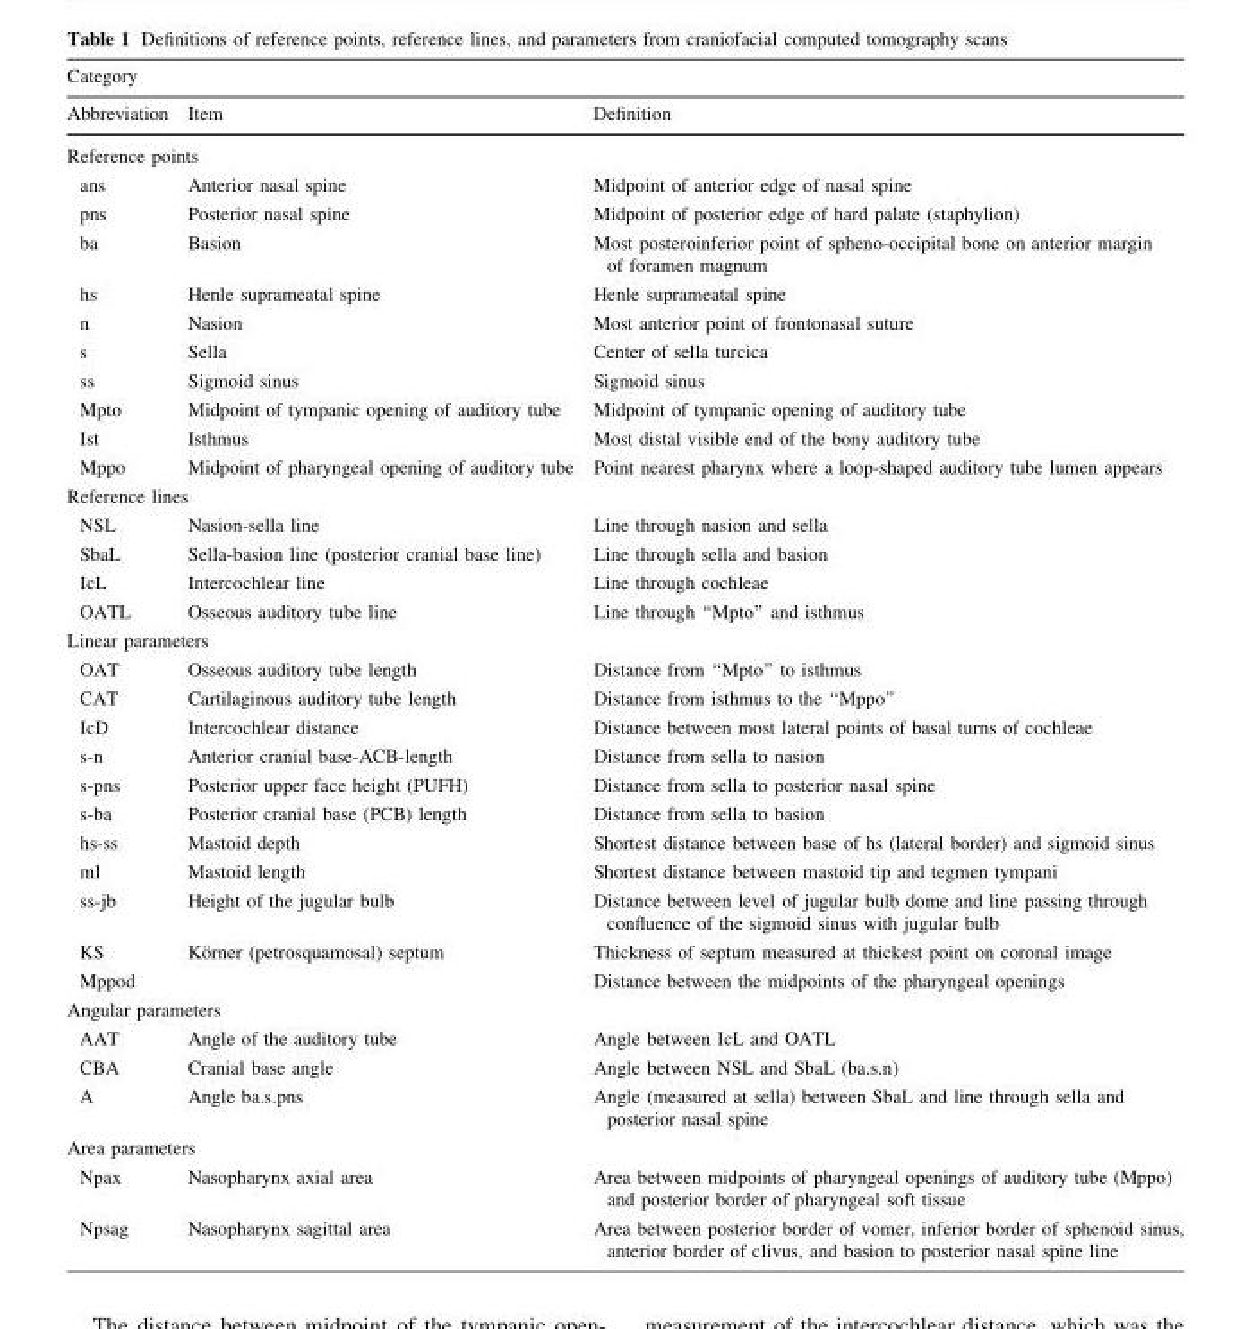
<table><thead><tr><td colspan="3">Category</td></tr><tr><td>Abbreviation</td><td>Item</td><td>Definition</td></tr></thead><tbody><tr><td colspan="3">Reference points</td></tr><tr><td>ans</td><td>Anterior nasal spine</td><td>Midpoint of anterior edge of nasal spine</td></tr><tr><td>pns</td><td>Posterior nasal spine</td><td>Midpoint of posterior edge of hard palate (staphylion)</td></tr><tr><td>ba</td><td>Basion</td><td>Most posteroinferior point of spheno-occipital bone on anterior margin of foramen magnum</td></tr><tr><td>hs</td><td>Henle suprameatal spine</td><td>Henle suprameatal spine</td></tr><tr><td>n</td><td>Nasion</td><td>Most anterior point of frontonasal suture</td></tr><tr><td>s</td><td>Sella</td><td>Center of sella turcica</td></tr><tr><td>ss</td><td>Sigmoid sinus</td><td>Sigmoid sinus</td></tr><tr><td>Mpto</td><td>Midpoint of tympanic opening of auditory tube</td><td>Midpoint of tympanic opening of auditory tube</td></tr><tr><td>Ist</td><td>Isthmus</td><td>Most distal visible end of the bony auditory tube</td></tr><tr><td>Mppo</td><td>Midpoint of pharyngeal opening of auditory tube</td><td>Point nearest pharynx where a loop-shaped auditory tube lumen appears</td></tr><tr><td colspan="3">Reference lines</td></tr><tr><td>NSL</td><td>Nasion-sella line</td><td>Line through nasion and sella</td></tr><tr><td>SbaL</td><td>Sella-basion line (posterior cranial base line)</td><td>Line through sella and basion</td></tr><tr><td>IcL</td><td>Intercochlear line</td><td>Line through cochleae</td></tr><tr><td>OATL</td><td>Osseous auditory tube line</td><td>Line through ‘‘Mpto’’ and isthmus</td></tr><tr><td colspan="3">Linear parameters</td></tr><tr><td>OAT</td><td>Osseous auditory tube length</td><td>Distance from ‘‘Mpto’’ to isthmus</td></tr><tr><td>CAT</td><td>Cartilaginous auditory tube length</td><td>Distance from isthmus to the ‘‘Mppo’’</td></tr><tr><td>IcD</td><td>Intercochlear distance</td><td>Distance between most lateral points of basal turns of cochleae</td></tr><tr><td>s-n</td><td>Anterior cranial base-ACB-length</td><td>Distance from sella to nasion</td></tr><tr><td>s-pns</td><td>Posterior upper face height (PUFH)</td><td>Distance from sella to posterior nasal spine</td></tr><tr><td>s-ba</td><td>Posterior cranial base (PCB) length</td><td>Distance from sella to basion</td></tr><tr><td>hs-ss</td><td>Mastoid depth</td><td>Shortest distance between base of hs (lateral border) and sigmoid sinus</td></tr><tr><td>ml</td><td>Mastoid length</td><td>Shortest distance between mastoid tip and tegmen tympani</td></tr><tr><td>ss-jb</td><td>Height of the jugular bulb</td><td>Distance between level of jugular bulb dome and line passing through confluence of the sigmoid sinus with jugular bulb</td></tr><tr><td>KS</td><td>Ko¨rner (petrosquamosal) septum</td><td>Thickness of septum measured at thickest point on coronal image</td></tr><tr><td>Mppod</td><td></td><td>Distance between the midpoints of the pharyngeal openings</td></tr><tr><td colspan="3">Angular parameters</td></tr><tr><td>AAT</td><td>Angle of the auditory tube</td><td>Angle between IcL and OATL</td></tr><tr><td>CBA</td><td>Cranial base angle</td><td>Angle between NSL and SbaL (ba.s.n)</td></tr><tr><td>A</td><td>Angle ba.s.pns</td><td>Angle (measured at sella) between SbaL and line through sella and posterior nasal spine</td></tr><tr><td colspan="3">Area parameters</td></tr><tr><td>Npax</td><td>Nasopharynx axial area</td><td>Area between midpoints of pharyngeal openings of auditory tube (Mppo) and posterior border of pharyngeal soft tissue</td></tr><tr><td>Npsag</td><td>Nasopharynx sagittal area</td><td>Area between posterior border of vomer, inferior border of sphenoid sinus, anterior border of clivus, and basion to posterior nasal spine line</td></tr></tbody></table>